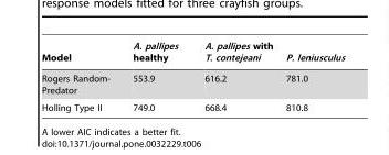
<table><thead><tr><td>Model</td><td>A. pallipes healthy</td><td>A. pallipes with T. contejeani</td><td>P. leniusculus</td></tr></thead><tbody><tr><td>Rogers Random- Predator</td><td>553.9</td><td>616.2</td><td>781.0</td></tr><tr><td>Holling Type II</td><td>749.0</td><td>668.4</td><td>810.8</td></tr></tbody></table>